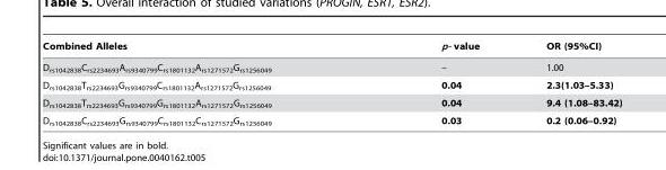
<table><thead><tr><td>Combined Alleles</td><td>p- value</td><td>OR (95%CI)</td></tr></thead><tbody><tr><td>D<sub>rs1042838</sub>C<sub>rs2234693</sub>A<sub>rs9340799</sub>C<sub>rs1801132</sub>A<sub>rs1271572</sub>G<sub>rs1256049</sub></td><td>–</td><td>1.00</td></tr><tr><td>D<sub>rs1042838</sub>T<sub>rs2234693</sub>G<sub>rs9340799</sub>C<sub>rs1801132</sub>A<sub>rs1271572</sub>G<sub>rs1256049</sub></td><td>0.04</td><td>2.3(1.03–5.33)</td></tr><tr><td>D<sub>rs1042838</sub>T<sub>rs2234693</sub>G<sub>rs9340799</sub>G<sub>rs1801132</sub>A<sub>rs1271572</sub>G<sub>rs1256049</sub></td><td>0.04</td><td>9.4 (1.08–83.42)</td></tr><tr><td>D<sub>rs1042838</sub>C<sub>rs2234693</sub>G<sub>rs9340799</sub>C<sub>rs1801132</sub>C<sub>rs1271572</sub>G<sub>rs1256049</sub></td><td>0.03</td><td>0.2 (0.06–0.92)</td></tr></tbody></table>